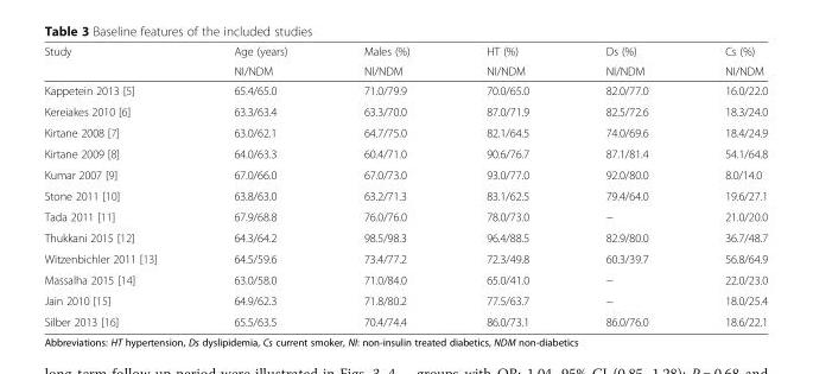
<table><thead><tr><td rowspan="2">Study</td><td rowspan="2">Age (years) NI/NDM</td><td rowspan="2">Males (%) NI/NDM</td><td rowspan="2">HT (%) NI/NDM</td><td rowspan="2">Ds (%) NI/NDM</td><td rowspan="2">Cs (%) NI/NDM</td></tr><tr></tr></thead><tbody><tr><td>Kappetein 2013 [5]</td><td>65.4/65.0</td><td>71.0/79.9</td><td>70.0/65.0</td><td>82.0/77.0</td><td>16.0/22.0</td></tr><tr><td>Kereiakes 2010 [6]</td><td>63.3/63.4</td><td>63.3/70.0</td><td>87.0/71.9</td><td>82.5/72.6</td><td>18.3/24.0</td></tr><tr><td>Kirtane 2008 [7]</td><td>63.0/62.1</td><td>64.7/75.0</td><td>82.1/64.5</td><td>74.0/69.6</td><td>18.4/24.9</td></tr><tr><td>Kirtane 2009 [8]</td><td>64.0/63.3</td><td>60.4/71.0</td><td>90.6/76.7</td><td>87.1/81.4</td><td>54.1/64.8</td></tr><tr><td>Kumar 2007 [9]</td><td>67.0/66.0</td><td>67.0/73.0</td><td>93.0/77.0</td><td>92.0/80.0</td><td>8.0/14.0</td></tr><tr><td>Stone 2011 [10]</td><td>63.8/63.0</td><td>63.2/71.3</td><td>83.1/62.5</td><td>79.4/64.0</td><td>19.6/27.1</td></tr><tr><td>Tada 2011 [11]</td><td>67.9/68.8</td><td>76.0/76.0</td><td>78.0/73.0</td><td>−</td><td>21.0/20.0</td></tr><tr><td>Thukkani 2015 [12]</td><td>64.3/64.2</td><td>98.5/98.3</td><td>96.4/88.5</td><td>82.9/80.0</td><td>36.7/48.7</td></tr><tr><td>Witzenbichler 2011 [13]</td><td>64.5/59.6</td><td>73.4/77.2</td><td>72.3/49.8</td><td>60.3/39.7</td><td>56.8/64.9</td></tr><tr><td>Massalha 2015 [14]</td><td>63.0/58.0</td><td>71.0/84.0</td><td>65.0/41.0</td><td>−</td><td>22.0/23.0</td></tr><tr><td>Jain 2010 [15]</td><td>64.9/62.3</td><td>71.8/80.2</td><td>77.5/63.7</td><td>−</td><td>18.0/25.4</td></tr><tr><td>Silber 2013 [16]</td><td>65.5/63.5</td><td>70.4/74.4</td><td>86.0/73.1</td><td>86.0/76.0</td><td>18.6/22.1</td></tr></tbody></table>